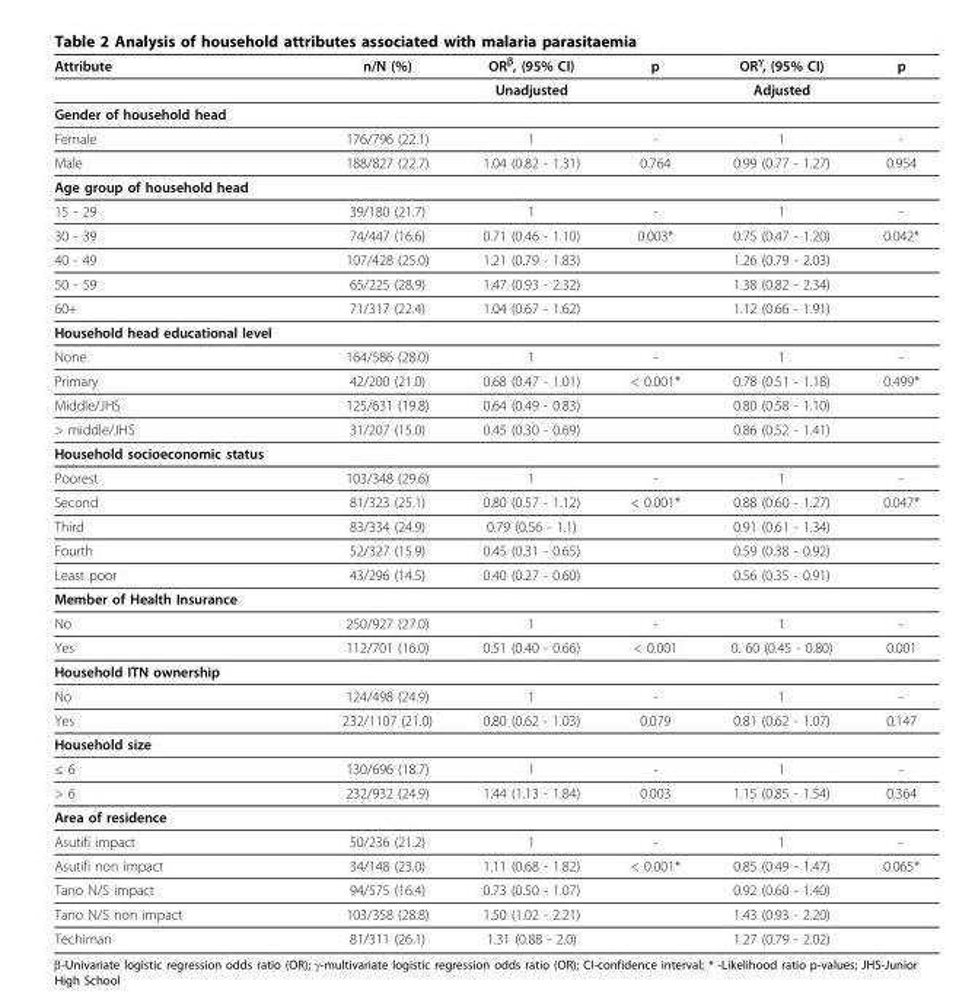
<table><thead><tr><td>Attribute</td><td>n/N (%)</td><td>OR<sup>β</sup>, (95% CI)</td><td>p</td><td>OR<sup>γ</sup>, (95% CI)</td><td>p</td></tr></thead><tbody><tr><td></td><td></td><td>Unadjusted</td><td></td><td>Adjusted</td><td></td></tr><tr><td colspan="6">Gender of household head</td></tr><tr><td>Female</td><td>176/796 (22.1)</td><td>1</td><td>-</td><td>1</td><td>-</td></tr><tr><td>Male</td><td>188/827 (22.7)</td><td>1.04 (0.82 - 1.31)</td><td>0.764</td><td>0.99 (0.77 - 1.27)</td><td>0.954</td></tr><tr><td colspan="6">Age group of household head</td></tr><tr><td>15 - 29</td><td>39/180 (21.7)</td><td>1</td><td>-</td><td>1</td><td>-</td></tr><tr><td>30 - 39</td><td>74/447 (16.6)</td><td>0.71 (0.46 - 1.10)</td><td>0.003*</td><td>0.75 (0.47 - 1.20)</td><td>0.042*</td></tr><tr><td>40 - 49</td><td>107/428 (25.0)</td><td>1.21 (0.79 - 1.83)</td><td></td><td>1.26 (0.79 - 2.03)</td><td></td></tr><tr><td>50 - 59</td><td>65/225 (28.9)</td><td>1.47 (0.93 - 2.32)</td><td></td><td>1.38 (0.82 - 2.34)</td><td></td></tr><tr><td>60+</td><td>71/317 (22.4)</td><td>1.04 (0.67 - 1.62)</td><td></td><td>1.12 (0.66 - 1.91)</td><td></td></tr><tr><td colspan="6">Household head educational level</td></tr><tr><td>None</td><td>164/586 (28.0)</td><td>1</td><td>-</td><td>1</td><td>-</td></tr><tr><td>Primary</td><td>42/200 (21.0)</td><td>0.68 (0.47 - 1.01)</td><td>&lt; 0.001*</td><td>0.78 (0.51 - 1.18)</td><td>0.499*</td></tr><tr><td>Middle/JHS</td><td>125/631 (19.8)</td><td>0.64 (0.49 - 0.83)</td><td></td><td>0.80 (0.58 - 1.10)</td><td></td></tr><tr><td>&gt; middle/JHS</td><td>31/207 (15.0)</td><td>0.45 (0.30 - 0.69)</td><td></td><td>0.86 (0.52 - 1.41)</td><td></td></tr><tr><td colspan="6">Household socioeconomic status</td></tr><tr><td>Poorest</td><td>103/348 (29.6)</td><td>1</td><td>-</td><td>1</td><td>-</td></tr><tr><td>Second</td><td>81/323 (25.1)</td><td>0.80 (0.57 - 1.12)</td><td>&lt; 0.001*</td><td>0.88 (0.60 - 1.27)</td><td>0.047*</td></tr><tr><td>Third</td><td>83/334 (24.9)</td><td>0.79 (0.56 - 1.1)</td><td></td><td>0.91 (0.61 - 1.34)</td><td></td></tr><tr><td>Fourth</td><td>52/327 (15.9)</td><td>0.45 (0.31 - 0.65)</td><td></td><td>0.59 (0.38 - 0.92)</td><td></td></tr><tr><td>Least poor</td><td>43/296 (14.5)</td><td>0.40 (0.27 - 0.60)</td><td></td><td>0.56 (0.35 - 0.91)</td><td></td></tr><tr><td colspan="6">Member of Health Insurance</td></tr><tr><td>No</td><td>250/927 (27.0)</td><td>1</td><td>-</td><td>1</td><td>-</td></tr><tr><td>Yes</td><td>112/701 (16.0)</td><td>0.51 (0.40 - 0.66)</td><td>&lt; 0.001</td><td>0. 60 (0.45 - 0.80)</td><td>0.001</td></tr><tr><td colspan="6">Household ITN ownership</td></tr><tr><td>No</td><td>124/498 (24.9)</td><td>1</td><td>-</td><td>1</td><td>-</td></tr><tr><td>Yes</td><td>232/1107 (21.0)</td><td>0.80 (0.62 - 1.03)</td><td>0.079</td><td>0.81 (0.62 - 1.07)</td><td>0.147</td></tr><tr><td colspan="6">Household size</td></tr><tr><td>≤ 6</td><td>130/696 (18.7)</td><td>1</td><td>-</td><td>1</td><td>-</td></tr><tr><td>&gt; 6</td><td>232/932 (24.9)</td><td>1.44 (1.13 - 1.84)</td><td>0.003</td><td>1.15 (0.85 - 1.54)</td><td>0.364</td></tr><tr><td colspan="6">Area of residence</td></tr><tr><td>Asutifi impact</td><td>50/236 (21.2)</td><td>1</td><td>-</td><td>1</td><td>-</td></tr><tr><td>Asutifi non impact</td><td>34/148 (23.0)</td><td>1.11 (0.68 - 1.82)</td><td>&lt; 0.001*</td><td>0.85 (0.49 - 1.47)</td><td>0.065*</td></tr><tr><td>Tano N/S impact</td><td>94/575 (16.4)</td><td>0.73 (0.50 - 1.07)</td><td></td><td>0.92 (0.60 - 1.40)</td><td></td></tr><tr><td>Tano N/S non impact</td><td>103/358 (28.8)</td><td>1.50 (1.02 - 2.21)</td><td></td><td>1.43 (0.93 - 2.20)</td><td></td></tr><tr><td>Techiman</td><td>81/311 (26.1)</td><td>1.31 (0.88 - 2.0)</td><td></td><td>1.27 (0.79 - 2.02)</td><td></td></tr></tbody></table>